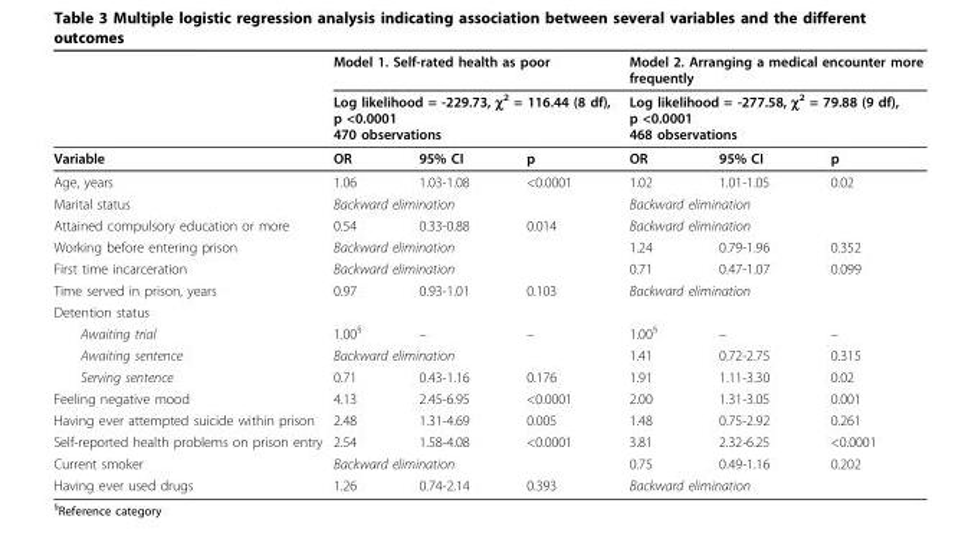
<table><thead><tr><td rowspan="3">Variable</td><td rowspan="2" colspan="3">Model 1. Self-rated health as poor Log likelihood = -229.73, χ2 = 116.44 (8 df), p &lt;0.0001 470 observations</td><td rowspan="2" colspan="3">Model 2. Arranging a medical encounter more frequently Log likelihood = -277.58, χ2 = 79.88 (9 df), p &lt;0.0001 468 observations</td></tr><tr></tr><tr><td>OR</td><td>95% CI</td><td>p</td><td>OR</td><td>95% CI</td><td>p</td></tr></thead><tbody><tr><td>Age, years</td><td>1.06</td><td>1.03-1.08</td><td>&lt;0.0001</td><td>1.02</td><td>1.01-1.05</td><td>0.02</td></tr><tr><td>Marital status</td><td colspan="3">Backward elimination</td><td colspan="3">Backward elimination</td></tr><tr><td>Attained compulsory education or more</td><td>0.54</td><td>0.33-0.88</td><td>0.014</td><td colspan="3">Backward elimination</td></tr><tr><td>Working before entering prison</td><td colspan="2">Backward elimination</td><td></td><td>1.24</td><td>0.79-1.96</td><td>0.352</td></tr><tr><td>First time incarceration</td><td colspan="2">Backward elimination</td><td></td><td>0.71</td><td>0.47-1.07</td><td>0.099</td></tr><tr><td>Time served in prison, years</td><td>0.97</td><td>0.93-1.01</td><td>0.103</td><td colspan="3">Backward elimination</td></tr><tr><td colspan="7">Detention status</td></tr><tr><td>Awaiting trial</td><td>1.00<sup>§</sup></td><td>–</td><td>–</td><td>1.00<sup>§</sup></td><td>–</td><td>–</td></tr><tr><td>Awaiting sentence</td><td colspan="3">Backward elimination</td><td>1.41</td><td>0.72-2.75</td><td>0.315</td></tr><tr><td>Serving sentence</td><td>0.71</td><td>0.43-1.16</td><td>0.176</td><td>1.91</td><td>1.11-3.30</td><td>0.02</td></tr><tr><td>Feeling negative mood</td><td>4.13</td><td>2.45-6.95</td><td>&lt;0.0001</td><td>2.00</td><td>1.31-3.05</td><td>0.001</td></tr><tr><td>Having ever attempted suicide within prison</td><td>2.48</td><td>1.31-4.69</td><td>0.005</td><td>1.48</td><td>0.75-2.92</td><td>0.261</td></tr><tr><td>Self-reported health problems on prison entry</td><td>2.54</td><td>1.58-4.08</td><td>&lt;0.0001</td><td>3.81</td><td>2.32-6.25</td><td>&lt;0.0001</td></tr><tr><td>Current smoker</td><td colspan="3">Backward elimination</td><td>0.75</td><td>0.49-1.16</td><td>0.202</td></tr><tr><td>Having ever used drugs</td><td>1.26</td><td>0.74-2.14</td><td>0.393</td><td colspan="3">Backward elimination</td></tr></tbody></table>